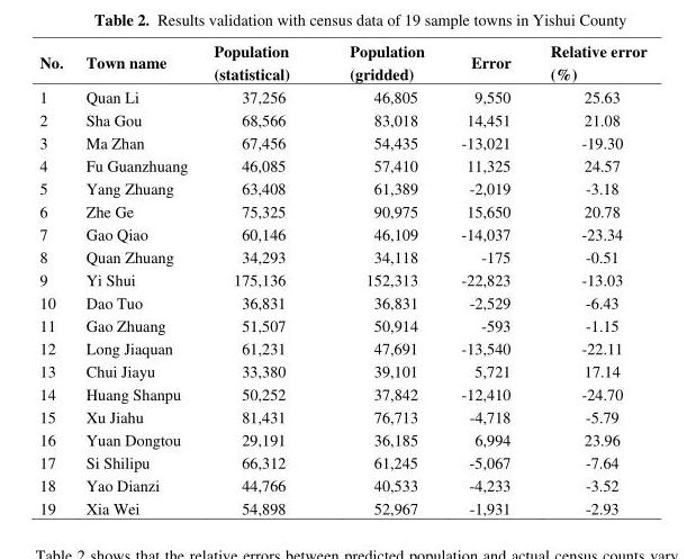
<table><thead><tr><td>No.</td><td>Town name</td><td>Population (statistical)</td><td>Population (gridded)</td><td>Error</td><td>Relative error (%)</td></tr></thead><tbody><tr><td>1</td><td>Quan Li</td><td>37,256</td><td>46,805</td><td>9,550</td><td>25.63</td></tr><tr><td>2</td><td>Sha Gou</td><td>68,566</td><td>83,018</td><td>14,451</td><td>21.08</td></tr><tr><td>3</td><td>Ma Zhan</td><td>67,456</td><td>54,435</td><td>-13,021</td><td>-19.30</td></tr><tr><td>4</td><td>Fu Guanzhuang</td><td>46,085</td><td>57,410</td><td>11,325</td><td>24.57</td></tr><tr><td>5</td><td>Yang Zhuang</td><td>63,408</td><td>61,389</td><td>-2,019</td><td>-3.18</td></tr><tr><td>6</td><td>Zhe Ge</td><td>75,325</td><td>90,975</td><td>15,650</td><td>20.78</td></tr><tr><td>7</td><td>Gao Qiao</td><td>60,146</td><td>46,109</td><td>-14,037</td><td>-23.34</td></tr><tr><td>8</td><td>Quan Zhuang</td><td>34,293</td><td>34,118</td><td>-175</td><td>-0.51</td></tr><tr><td>9</td><td>Yi Shui</td><td>175,136</td><td>152,313</td><td>-22,823</td><td>-13.03</td></tr><tr><td>10</td><td>Dao Tuo</td><td>36,831</td><td>36,831</td><td>-2,529</td><td>-6.43</td></tr><tr><td>11</td><td>Gao Zhuang</td><td>51,507</td><td>50,914</td><td>-593</td><td>-1.15</td></tr><tr><td>12</td><td>Long Jiaquan</td><td>61,231</td><td>47,691</td><td>-13,540</td><td>-22.11</td></tr><tr><td>13</td><td>Chui Jiayu</td><td>33,380</td><td>39,101</td><td>5,721</td><td>17.14</td></tr><tr><td>14</td><td>Huang Shanpu</td><td>50,252</td><td>37,842</td><td>-12,410</td><td>-24.70</td></tr><tr><td>15</td><td>Xu Jiahu</td><td>81,431</td><td>76,713</td><td>-4,718</td><td>-5.79</td></tr><tr><td>16</td><td>Yuan Dongtou</td><td>29,191</td><td>36,185</td><td>6,994</td><td>23.96</td></tr><tr><td>17</td><td>Si Shilipu</td><td>66,312</td><td>61,245</td><td>-5,067</td><td>-7.64</td></tr><tr><td>18</td><td>Yao Dianzi</td><td>44,766</td><td>40,533</td><td>-4,233</td><td>-3.52</td></tr><tr><td>19</td><td>Xia Wei</td><td>54,898</td><td>52,967</td><td>-1,931</td><td>-2.93</td></tr></tbody></table>